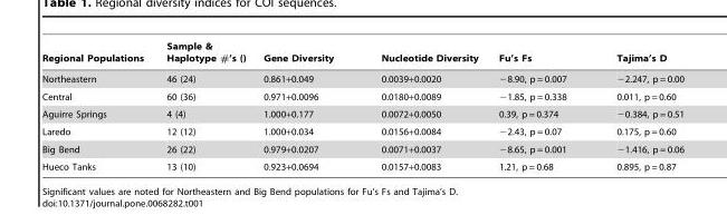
<table><thead><tr><td>Regional Populations</td><td>Sample &amp; Haplotype #’s ()</td><td>Gene Diversity</td><td>Nucleotide Diversity</td><td>Fu’s Fs</td><td>Tajima’s D</td></tr></thead><tbody><tr><td>Northeastern</td><td>46 (24)</td><td>0.861+0.049</td><td>0.0039+0.0020</td><td>−8.90, p = 0.007</td><td>−2.247, p = 0.00</td></tr><tr><td>Central</td><td>60 (36)</td><td>0.971+0.0096</td><td>0.0180+0.0089</td><td>−1.85, p = 0.338</td><td>0.011, p = 0.60</td></tr><tr><td>Aguirre Springs</td><td>4 (4)</td><td>1.000+0.177</td><td>0.0072+0.0050</td><td>0.39, p = 0.374</td><td>−0.384, p = 0.51</td></tr><tr><td>Laredo</td><td>12 (12)</td><td>1.000+0.034</td><td>0.0156+0.0084</td><td>−2.43, p = 0.07</td><td>0.175, p = 0.60</td></tr><tr><td>Big Bend</td><td>26 (22)</td><td>0.979+0.0207</td><td>0.0071+0.0037</td><td>−8.65, p = 0.001</td><td>−1.416, p = 0.06</td></tr><tr><td>Hueco Tanks</td><td>13 (10)</td><td>0.923+0.0694</td><td>0.0157+0.0083</td><td>1.21, p = 0.68</td><td>0.895, p = 0.87</td></tr></tbody></table>